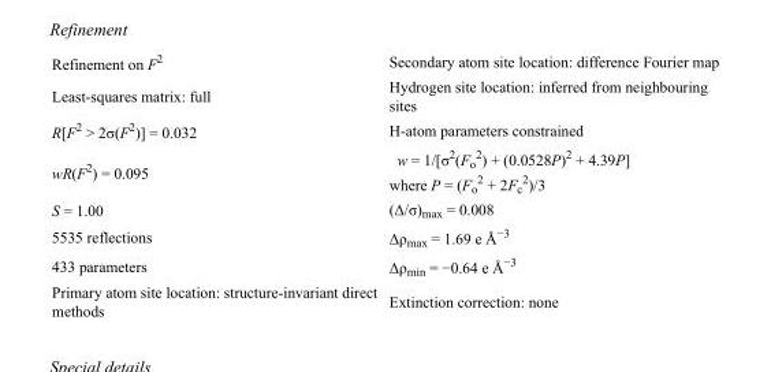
<table><tbody><tr><td>Refinement on F<sup>2</sup></td><td>Secondary atom site location: difference Fourier map</td></tr><tr><td>Least-squares matrix: full</td><td>Hydrogen site location: inferred from neighbouring sites</td></tr><tr><td>R[F<sup>2</sup> &gt; 2σ(F<sup>2</sup>)] = 0.032</td><td>H-atom parameters constrained</td></tr><tr><td>wR(F<sup>2</sup>) = 0.095</td><td>w = 1/[σ<sup>2</sup>(F<sub>o</sub> <sup>2</sup>) + (0.0528P)<sup>2</sup> + 4.39P] where P = (F<sub>o</sub> <sup>2</sup> + 2F<sub>c</sub> <sup>2</sup>)/3</td></tr><tr><td>S = 1.00</td><td>(Δ/σ)<sub>max</sub> = 0.008</td></tr><tr><td>5535 reflections</td><td>Δρ<sub>max</sub> = 1.69 e Å<sup>−3</sup></td></tr><tr><td>433 parameters</td><td>Δρ<sub>min</sub> = −0.64 e Å<sup>−3</sup></td></tr><tr><td>Primary atom site location: structure-invariant direct methods</td><td>Extinction correction: none</td></tr></tbody></table>